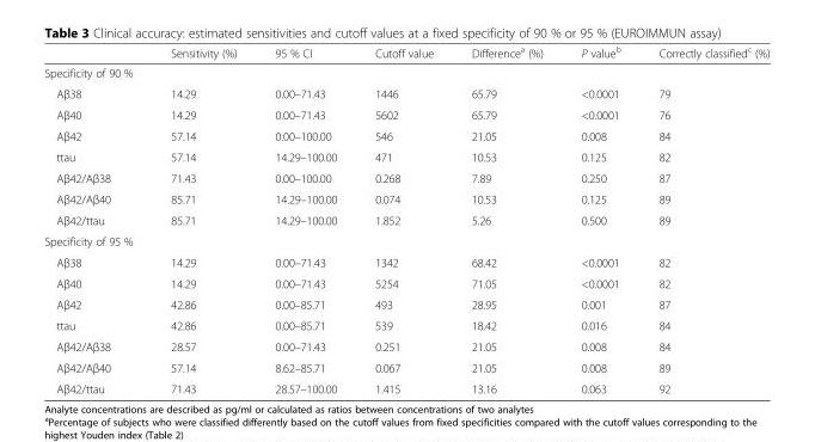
<table><thead><tr><td></td><td>Sensitivity (%)</td><td>95 % CI</td><td>Cutoff value</td><td>Difference<sup>a</sup> (%)</td><td>P value<sup>b</sup></td><td>Correctly classified<sup>c</sup> (%)</td></tr></thead><tbody><tr><td colspan="7">Specificity of 90 %</td></tr><tr><td>Aβ38</td><td>14.29</td><td>0.00–71.43</td><td>1446</td><td>65.79</td><td>&lt;0.0001</td><td>79</td></tr><tr><td>Aβ40</td><td>14.29</td><td>0.00–71.43</td><td>5602</td><td>65.79</td><td>&lt;0.0001</td><td>76</td></tr><tr><td>Aβ42</td><td>57.14</td><td>0.00–100.00</td><td>546</td><td>21.05</td><td>0.008</td><td>84</td></tr><tr><td>ttau</td><td>57.14</td><td>14.29–100.00</td><td>471</td><td>10.53</td><td>0.125</td><td>82</td></tr><tr><td>Aβ42/Aβ38</td><td>71.43</td><td>0.00–100.00</td><td>0.268</td><td>7.89</td><td>0.250</td><td>87</td></tr><tr><td>Aβ42/Aβ40</td><td>85.71</td><td>14.29–100.00</td><td>0.074</td><td>10.53</td><td>0.125</td><td>89</td></tr><tr><td>Aβ42/ttau</td><td>85.71</td><td>14.29–100.00</td><td>1.852</td><td>5.26</td><td>0.500</td><td>89</td></tr><tr><td colspan="7">Specificity of 95 %</td></tr><tr><td>Aβ38</td><td>14.29</td><td>0.00–71.43</td><td>1342</td><td>68.42</td><td>&lt;0.0001</td><td>82</td></tr><tr><td>Aβ40</td><td>14.29</td><td>0.00–71.43</td><td>5254</td><td>71.05</td><td>&lt;0.0001</td><td>82</td></tr><tr><td>Aβ42</td><td>42.86</td><td>0.00–85.71</td><td>493</td><td>28.95</td><td>0.001</td><td>87</td></tr><tr><td>ttau</td><td>42.86</td><td>0.00–85.71</td><td>539</td><td>18.42</td><td>0.016</td><td>84</td></tr><tr><td>Aβ42/Aβ38</td><td>28.57</td><td>0.00–71.43</td><td>0.251</td><td>21.05</td><td>0.008</td><td>84</td></tr><tr><td>Aβ42/Aβ40</td><td>57.14</td><td>8.62–85.71</td><td>0.067</td><td>21.05</td><td>0.008</td><td>89</td></tr><tr><td>Aβ42/ttau</td><td>71.43</td><td>28.57–100.00</td><td>1.415</td><td>13.16</td><td>0.063</td><td>92</td></tr></tbody></table>